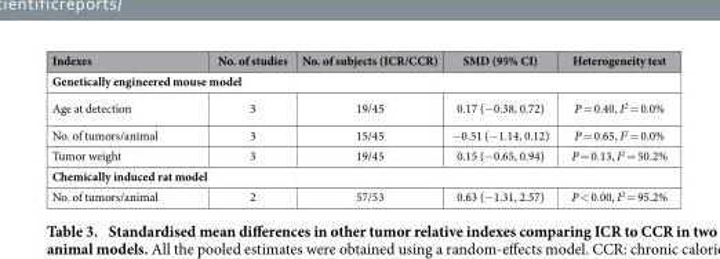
<table><thead><tr><td>Indexes</td><td>No. of studies</td><td>No. of subjects (ICR/CCR)</td><td>SMD (95% CI)</td><td>Heterogeneity test</td></tr></thead><tbody><tr><td colspan="5">Genetically engineered mouse model</td></tr><tr><td>Age at detection</td><td>3</td><td>19/45</td><td>0.17 (− 0.38, 0.72)</td><td>P = 0.40, I<sup>2</sup> = 0.0%</td></tr><tr><td>No. of tumors/animal</td><td>3</td><td>15/45</td><td>− 0.51 (− 1.14, 0.12)</td><td>P = 0.65, I<sup>2</sup> = 0.0%</td></tr><tr><td>Tumor weight</td><td>3</td><td>19/45</td><td>0.15 (− 0.65, 0.94)</td><td>P = 0.13, I<sup>2</sup> = 50.2%</td></tr><tr><td colspan="5">Chemically induced rat model</td></tr><tr><td>No. of tumors/animal</td><td>2</td><td>57/53</td><td>0.63 (− 1.31, 2.57)</td><td>P &lt; 0.00, I<sup>2</sup> = 95.2%</td></tr></tbody></table>